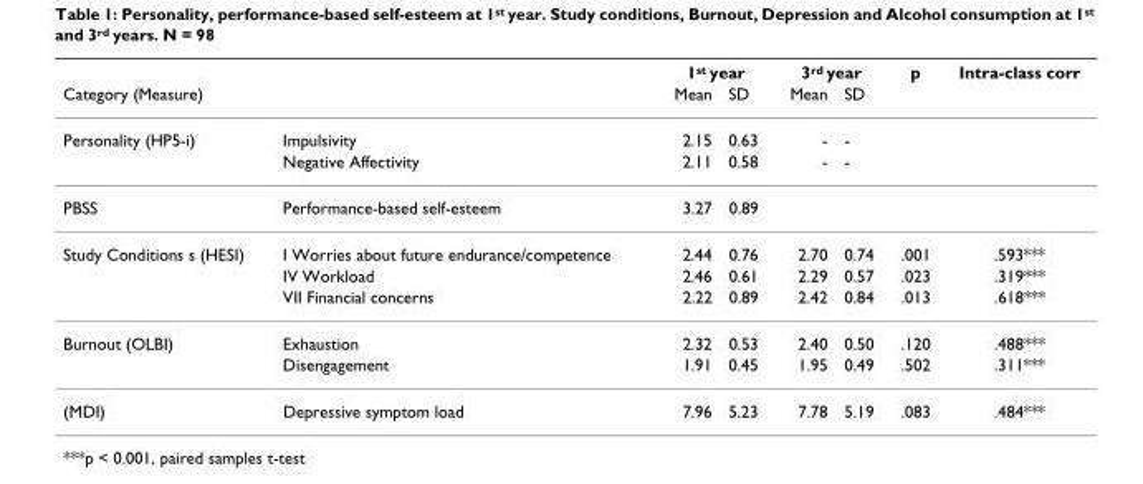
<table><thead><tr><td rowspan="2">Category (Measure)</td><td rowspan="2"></td><td colspan="2">1<sup>st</sup> year</td><td colspan="2">3<sup>rd</sup> year</td><td rowspan="2">p</td><td rowspan="2">Intra-class corr</td></tr><tr><td>Mean</td><td>SD</td><td>Mean</td><td>SD</td></tr></thead><tbody><tr><td rowspan="2">Personality (HP5-i)</td><td>Impulsivity</td><td>2.15</td><td>0.63</td><td>-</td><td>-</td><td></td><td></td></tr><tr><td>Negative Affectivity</td><td>2.11</td><td>0.58</td><td>-</td><td>-</td><td></td><td></td></tr><tr><td>PBSS</td><td>Performance-based self-esteem</td><td>3.27</td><td>0.89</td><td></td><td></td><td></td><td></td></tr><tr><td rowspan="3">Study Conditions s (HESI)</td><td>I Worries about future endurance/competence</td><td>2.44</td><td>0.76</td><td>2.70</td><td>0.74</td><td>.001</td><td>.593***</td></tr><tr><td>IV Workload</td><td>2.46</td><td>0.61</td><td>2.29</td><td>0.57</td><td>.023</td><td>.319***</td></tr><tr><td>VII Financial concerns</td><td>2.22</td><td>0.89</td><td>2.42</td><td>0.84</td><td>.013</td><td>.618***</td></tr><tr><td rowspan="2">Burnout (OLBI)</td><td>Exhaustion</td><td>2.32</td><td>0.53</td><td>2.40</td><td>0.50</td><td>.120</td><td>.488***</td></tr><tr><td>Disengagement</td><td>1.91</td><td>0.45</td><td>1.95</td><td>0.49</td><td>.502</td><td>.311***</td></tr><tr><td>(MDI)</td><td>Depressive symptom load</td><td>7.96</td><td>5.23</td><td>7.78</td><td>5.19</td><td>.083</td><td>.484***</td></tr></tbody></table>